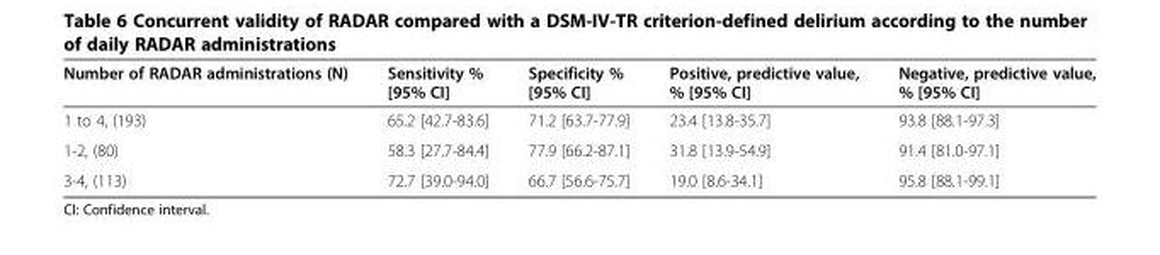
<table><thead><tr><td>Number of RADAR administrations (N)</td><td>Sensitivity % [95% CI]</td><td>Specificity % [95% CI]</td><td>Positive, predictive value, % [95% CI]</td><td>Negative, predictive value, % [95% CI]</td></tr></thead><tbody><tr><td>1 to 4, (193)</td><td>65.2 [42.7-83.6]</td><td>71.2 [63.7-77.9]</td><td>23.4 [13.8-35.7]</td><td>93.8 [88.1-97.3]</td></tr><tr><td>1-2, (80)</td><td>58.3 [27.7-84.4]</td><td>77.9 [66.2-87.1]</td><td>31.8 [13.9-54.9]</td><td>91.4 [81.0-97.1]</td></tr><tr><td>3-4, (113)</td><td>72.7 [39.0-94.0]</td><td>66.7 [56.6-75.7]</td><td>19.0 [8.6-34.1]</td><td>95.8 [88.1-99.1]</td></tr></tbody></table>